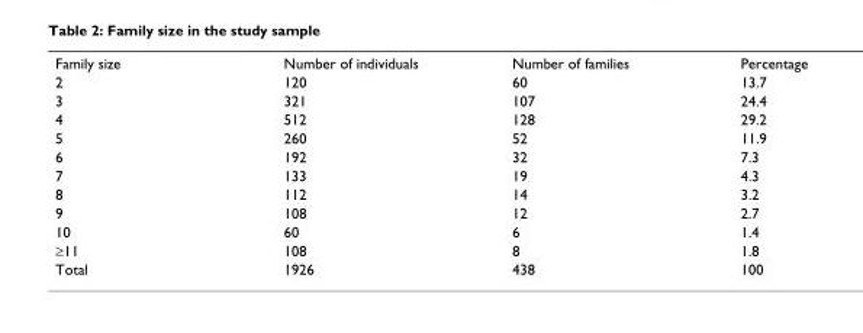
<table><tbody><tr><td>Family size</td><td>Number of individuals</td><td>Number of families</td><td>Percentage</td></tr><tr><td>2</td><td>120</td><td>60</td><td>13.7</td></tr><tr><td>3</td><td>321</td><td>107</td><td>24.4</td></tr><tr><td>4</td><td>512</td><td>128</td><td>29.2</td></tr><tr><td>5</td><td>260</td><td>52</td><td>11.9</td></tr><tr><td>6</td><td>192</td><td>32</td><td>7.3</td></tr><tr><td>7</td><td>133</td><td>19</td><td>4.3</td></tr><tr><td>8</td><td>112</td><td>14</td><td>3.2</td></tr><tr><td>9</td><td>108</td><td>12</td><td>2.7</td></tr><tr><td>10</td><td>60</td><td>6</td><td>1.4</td></tr><tr><td>≥11</td><td>108</td><td>8</td><td>1.8</td></tr><tr><td>Total</td><td>1926</td><td>438</td><td>100</td></tr></tbody></table>